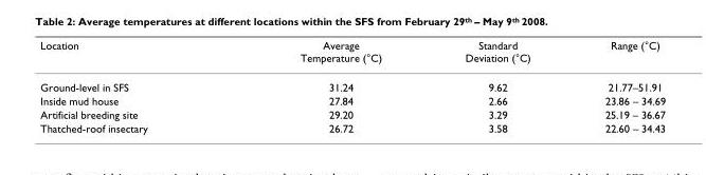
<table><thead><tr><td>Location</td><td>Average Temperature (°C)</td><td>Standard Deviation (°C)</td><td>Range (°C)</td></tr></thead><tbody><tr><td>Ground-level in SFS</td><td>31.24</td><td>9.62</td><td>21.77–51.91</td></tr><tr><td>Inside mud house</td><td>27.84</td><td>2.66</td><td>23.86 – 34.69</td></tr><tr><td>Artificial breeding site</td><td>29.20</td><td>3.29</td><td>25.19 – 36.67</td></tr><tr><td>Thatched-roof insectary</td><td>26.72</td><td>3.58</td><td>22.60 – 34.43</td></tr></tbody></table>